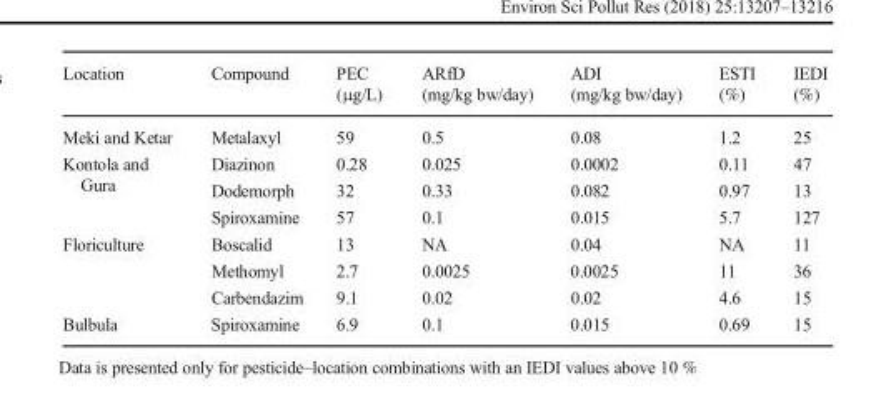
<table><thead><tr><td>Location</td><td>Compound</td><td>PEC (μg/L)</td><td>ARfD (mg/kg bw/day)</td><td>ADI (mg/kg bw/day)</td><td>ESTI (%)</td><td>IEDI (%)</td></tr></thead><tbody><tr><td>Meki and Ketar</td><td>Metalaxyl</td><td>59</td><td>0.5</td><td>0.08</td><td>1.2</td><td>25</td></tr><tr><td rowspan="3">Kontola and Gura</td><td>Diazinon</td><td>0.28</td><td>0.025</td><td>0.0002</td><td>0.11</td><td>47</td></tr><tr><td>Dodemorph</td><td>32</td><td>0.33</td><td>0.082</td><td>0.97</td><td>13</td></tr><tr><td>Spiroxamine</td><td>57</td><td>0.1</td><td>0.015</td><td>5.7</td><td>127</td></tr><tr><td rowspan="3">Floriculture</td><td>Boscalid</td><td>13</td><td>NA</td><td>0.04</td><td>NA</td><td>11</td></tr><tr><td>Methomyl</td><td>2.7</td><td>0.0025</td><td>0.0025</td><td>11</td><td>36</td></tr><tr><td>Carbendazim</td><td>9.1</td><td>0.02</td><td>0.02</td><td>4.6</td><td>15</td></tr><tr><td>Bulbula</td><td>Spiroxamine</td><td>6.9</td><td>0.1</td><td>0.015</td><td>0.69</td><td>15</td></tr></tbody></table>